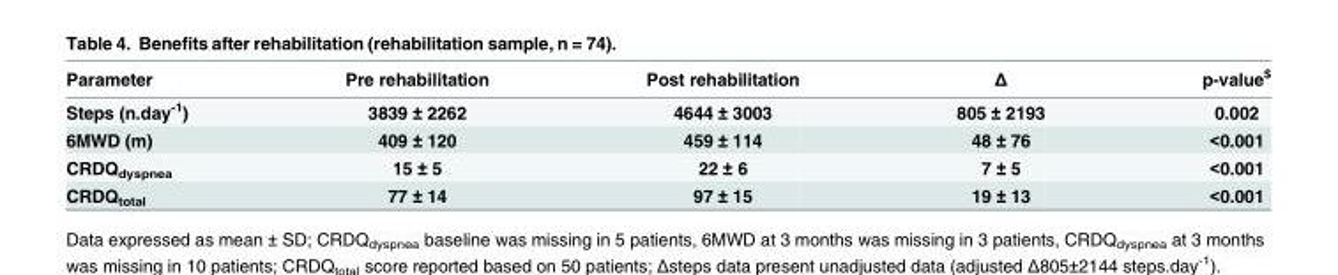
<table><thead><tr><td>Parameter</td><td>Pre rehabilitation</td><td>Post rehabilitation</td><td>Δ</td><td>p-value<sup>$</sup></td></tr></thead><tbody><tr><td>Steps (n.day<sup>-1</sup>)</td><td>3839 ± 2262</td><td>4644 ± 3003</td><td>805 ± 2193</td><td>0.002</td></tr><tr><td>6MWD (m)</td><td>409 ± 120</td><td>459 ± 114</td><td>48 ± 76</td><td>&lt;0.001</td></tr><tr><td>CRDQ<sub>dyspnea</sub></td><td>15 ± 5</td><td>22 ± 6</td><td>7 ± 5</td><td>&lt;0.001</td></tr><tr><td>CRDQ<sub>total</sub></td><td>77 ± 14</td><td>97 ± 15</td><td>19 ± 13</td><td>&lt;0.001</td></tr></tbody></table>